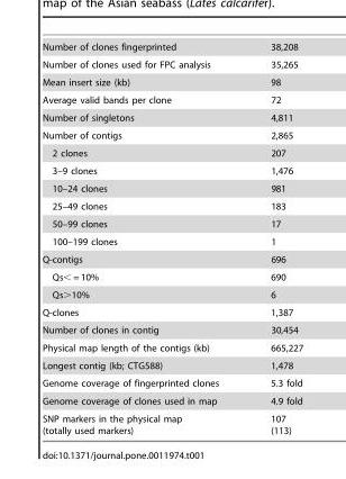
<table><tbody><tr><td>Number of clones fingerprinted</td><td>38,208</td></tr><tr><td>Number of clones used for FPC analysis</td><td>35,265</td></tr><tr><td>Mean insert size (kb)</td><td>98</td></tr><tr><td>Average valid bands per clone</td><td>72</td></tr><tr><td>Number of singletons</td><td>4,811</td></tr><tr><td>Number of contigs</td><td>2,865</td></tr><tr><td>2 clones</td><td>207</td></tr><tr><td>3–9 clones</td><td>1,476</td></tr><tr><td>10–24 clones</td><td>981</td></tr><tr><td>25–49 clones</td><td>183</td></tr><tr><td>50–99 clones</td><td>17</td></tr><tr><td>100–199 clones</td><td>1</td></tr><tr><td>Q-contigs</td><td>696</td></tr><tr><td>Qs&lt; = 10%</td><td>690</td></tr><tr><td>Qs&gt;10%</td><td>6</td></tr><tr><td>Q-clones</td><td>1,387</td></tr><tr><td>Number of clones in contig</td><td>30,454</td></tr><tr><td>Physical map length of the contigs (kb)</td><td>665,227</td></tr><tr><td>Longest contig (kb; CTG588)</td><td>1,478</td></tr><tr><td>Genome coverage of fingerprinted clones</td><td>5.3 fold</td></tr><tr><td>Genome coverage of clones used in map</td><td>4.9 fold</td></tr><tr><td>SNP markers in the physical map (totally used markers)</td><td>107 (113)</td></tr></tbody></table>